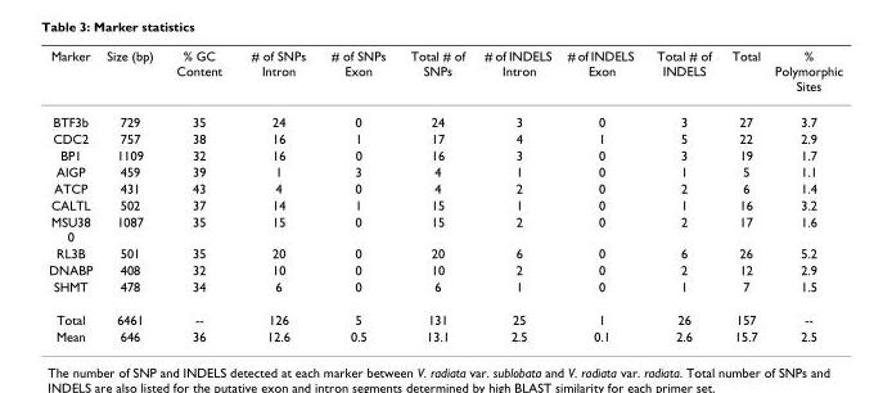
<table><thead><tr><td>Marker</td><td>Size (bp)</td><td>% GC Content</td><td># of SNPs Intron</td><td># of SNPs Exon</td><td>Total # of SNPs</td><td># of INDELS Intron</td><td># of INDELS Exon</td><td>Total # of INDELS</td><td>Total</td><td>% Polymorphic Sites</td></tr></thead><tbody><tr><td>BTF3b</td><td>729</td><td>35</td><td>24</td><td>0</td><td>24</td><td>3</td><td>0</td><td>3</td><td>27</td><td>3.7</td></tr><tr><td>CDC2</td><td>757</td><td>38</td><td>16</td><td>1</td><td>17</td><td>4</td><td>1</td><td>5</td><td>22</td><td>2.9</td></tr><tr><td>BP1</td><td>1109</td><td>32</td><td>16</td><td>0</td><td>16</td><td>3</td><td>0</td><td>3</td><td>19</td><td>1.7</td></tr><tr><td>AIGP</td><td>459</td><td>39</td><td>1</td><td>3</td><td>4</td><td>1</td><td>0</td><td>1</td><td>5</td><td>1.1</td></tr><tr><td>ATCP</td><td>431</td><td>43</td><td>4</td><td>0</td><td>4</td><td>2</td><td>0</td><td>2</td><td>6</td><td>1.4</td></tr><tr><td>CALTL</td><td>502</td><td>37</td><td>14</td><td>1</td><td>15</td><td>1</td><td>0</td><td>1</td><td>16</td><td>3.2</td></tr><tr><td>MSU38 0</td><td>1087</td><td>35</td><td>15</td><td>0</td><td>15</td><td>2</td><td>0</td><td>2</td><td>17</td><td>1.6</td></tr><tr><td>RL3B</td><td>501</td><td>35</td><td>20</td><td>0</td><td>20</td><td>6</td><td>0</td><td>6</td><td>26</td><td>5.2</td></tr><tr><td>DNABP</td><td>408</td><td>32</td><td>10</td><td>0</td><td>10</td><td>2</td><td>0</td><td>2</td><td>12</td><td>2.9</td></tr><tr><td>SHMT</td><td>478</td><td>34</td><td>6</td><td>0</td><td>6</td><td>1</td><td>0</td><td>1</td><td>7</td><td>1.5</td></tr><tr><td>Total</td><td>6461</td><td>--</td><td>126</td><td>5</td><td>131</td><td>25</td><td>1</td><td>26</td><td>157</td><td>--</td></tr><tr><td>Mean</td><td>646</td><td>36</td><td>12.6</td><td>0.5</td><td>13.1</td><td>2.5</td><td>0.1</td><td>2.6</td><td>15.7</td><td>2.5</td></tr></tbody></table>